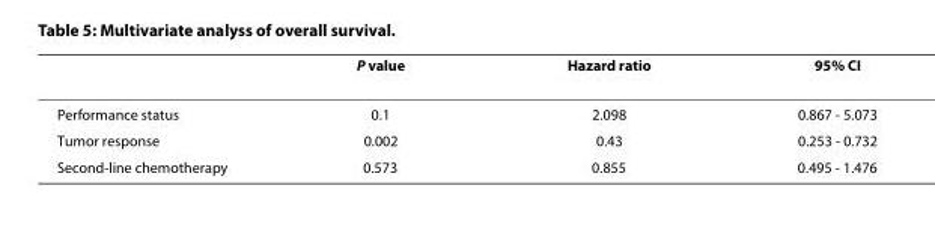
<table><thead><tr><td></td><td>P value</td><td>Hazard ratio</td><td>95% CI</td></tr></thead><tbody><tr><td>Performance status</td><td>0.1</td><td>2.098</td><td>0.867 - 5.073</td></tr><tr><td>Tumor response</td><td>0.002</td><td>0.43</td><td>0.253 - 0.732</td></tr><tr><td>Second-line chemotherapy</td><td>0.573</td><td>0.855</td><td>0.495 - 1.476</td></tr></tbody></table>